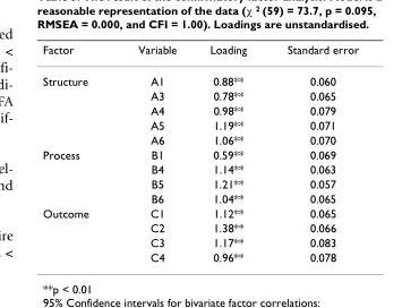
<table><thead><tr><td>Factor</td><td>Variable</td><td>Loading</td><td>Standard error</td></tr></thead><tbody><tr><td rowspan="5">Structure</td><td>A1</td><td>0.88**</td><td>0.060</td></tr><tr><td>A3</td><td>0.78**</td><td>0.065</td></tr><tr><td>A4</td><td>0.98**</td><td>0.079</td></tr><tr><td>A5</td><td>1.19**</td><td>0.071</td></tr><tr><td>A6</td><td>1.06**</td><td>0.070</td></tr><tr><td rowspan="4">Process</td><td>B1</td><td>0.59**</td><td>0.069</td></tr><tr><td>B4</td><td>1.14**</td><td>0.063</td></tr><tr><td>B5</td><td>1.21**</td><td>0.057</td></tr><tr><td>B6</td><td>1.04**</td><td>0.065</td></tr><tr><td rowspan="4">Outcome</td><td>C1</td><td>1.12**</td><td>0.065</td></tr><tr><td>C2</td><td>1.38**</td><td>0.066</td></tr><tr><td>C3</td><td>1.17**</td><td>0.083</td></tr><tr><td>C4</td><td>0.96**</td><td>0.078</td></tr></tbody></table>